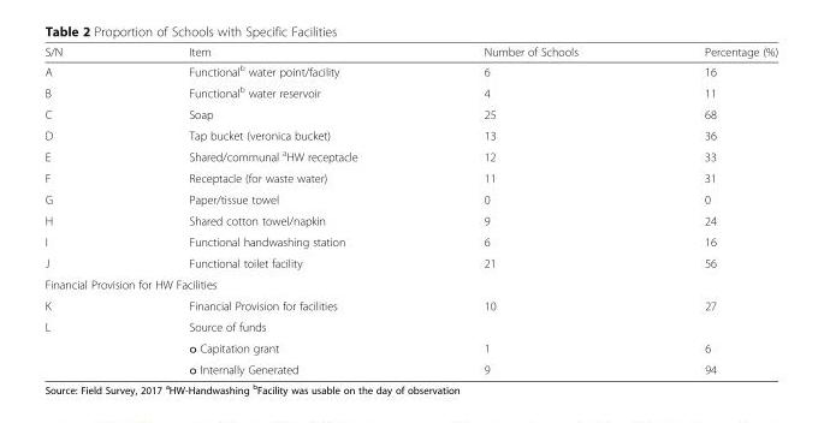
<table><thead><tr><td>S/N</td><td>Item</td><td>Number of Schools</td><td>Percentage (%)</td></tr></thead><tbody><tr><td>A</td><td>Functional<sup>b</sup> water point/facility</td><td>6</td><td>16</td></tr><tr><td>B</td><td>Functional<sup>b</sup> water reservoir</td><td>4</td><td>11</td></tr><tr><td>C</td><td>Soap</td><td>25</td><td>68</td></tr><tr><td>D</td><td>Tap bucket (veronica bucket)</td><td>13</td><td>36</td></tr><tr><td>E</td><td>Shared/communal <sup>a</sup>HW receptacle</td><td>12</td><td>33</td></tr><tr><td>F</td><td>Receptacle (for waste water)</td><td>11</td><td>31</td></tr><tr><td>G</td><td>Paper/tissue towel</td><td>0</td><td>0</td></tr><tr><td>H</td><td>Shared cotton towel/napkin</td><td>9</td><td>24</td></tr><tr><td>I</td><td>Functional handwashing station</td><td>6</td><td>16</td></tr><tr><td>J</td><td>Functional toilet facility</td><td>21</td><td>56</td></tr><tr><td colspan="4">Financial Provision for HW Facilities</td></tr><tr><td>K</td><td>Financial Provision for facilities</td><td>10</td><td>27</td></tr><tr><td rowspan="3">L</td><td>Source of funds</td><td></td><td></td></tr><tr><td>o Capitation grant</td><td>1</td><td>6</td></tr><tr><td>o Internally Generated</td><td>9</td><td>94</td></tr></tbody></table>